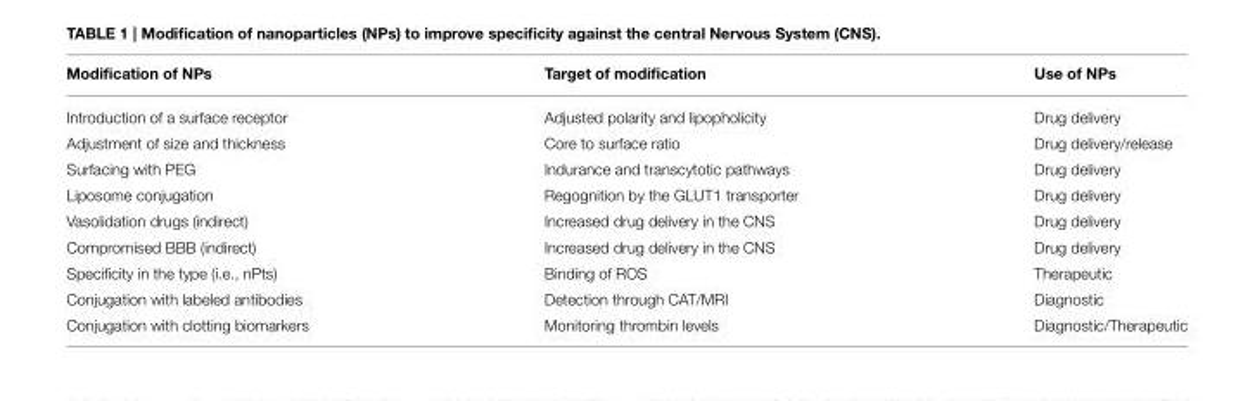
<table><thead><tr><td>Modification of NPs</td><td>Target of modification</td><td>Use of NPs</td></tr></thead><tbody><tr><td>Introduction of a surface receptor</td><td>Adjusted polarity and lipopholicity</td><td>Drug delivery</td></tr><tr><td>Adjustment of size and thickness</td><td>Core to surface ratio</td><td>Drug delivery/release</td></tr><tr><td>Surfacing with PEG</td><td>Indurance and transcytotic pathways</td><td>Drug delivery</td></tr><tr><td>Liposome conjugation</td><td>Regognition by the GLUT1 transporter</td><td>Drug delivery</td></tr><tr><td>Vasolidation drugs (indirect)</td><td>Increased drug delivery in the CNS</td><td>Drug delivery</td></tr><tr><td>Compromised BBB (indirect)</td><td>Increased drug delivery in the CNS</td><td>Drug delivery</td></tr><tr><td>Specificity in the type (i.e., nPts)</td><td>Binding of ROS</td><td>Therapeutic</td></tr><tr><td>Conjugation with labeled antibodies</td><td>Detection through CAT/MRI</td><td>Diagnostic</td></tr><tr><td>Conjugation with clotting biomarkers</td><td>Monitoring thrombin levels</td><td>Diagnostic/Therapeutic</td></tr></tbody></table>